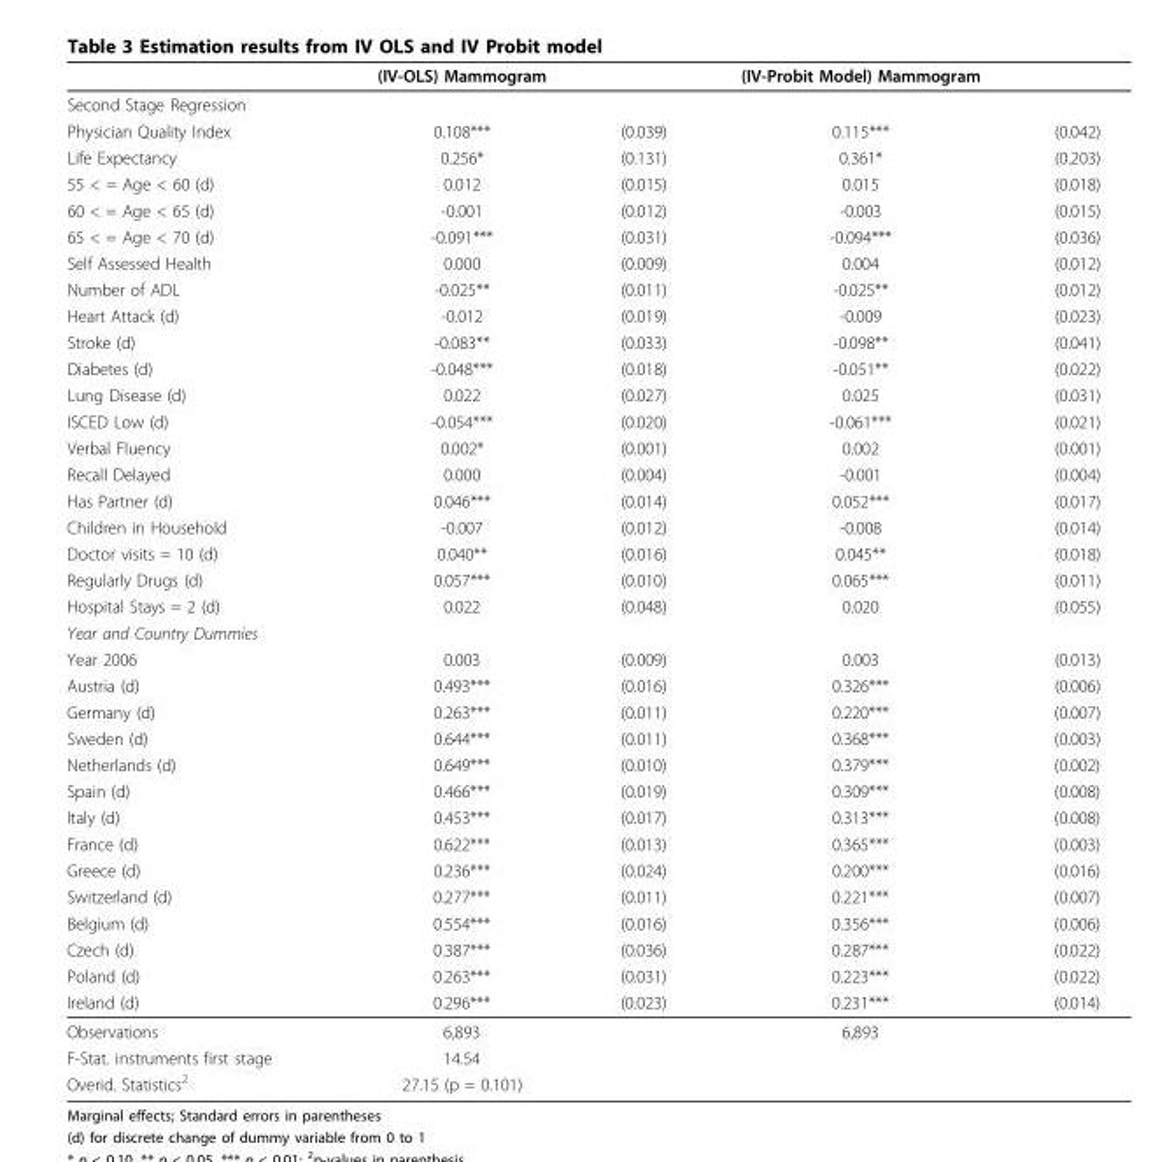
<table><thead><tr><td></td><td>(IV-OLS) Mammogram</td><td></td><td>(IV-Probit Model) Mammogram</td><td></td></tr></thead><tbody><tr><td colspan="5">Second Stage Regression</td></tr><tr><td>Physician Quality Index</td><td>0.108***</td><td>(0.039)</td><td>0.115***</td><td>(0.042)</td></tr><tr><td>Life Expectancy</td><td>0.256*</td><td>(0.131)</td><td>0.361*</td><td>(0.203)</td></tr><tr><td>55 &lt; = Age &lt; 60 (d)</td><td>0.012</td><td>(0.015)</td><td>0.015</td><td>(0.018)</td></tr><tr><td>60 &lt; = Age &lt; 65 (d)</td><td>-0.001</td><td>(0.012)</td><td>-0.003</td><td>(0.015)</td></tr><tr><td>65 &lt; = Age &lt; 70 (d)</td><td>-0.091***</td><td>(0.031)</td><td>-0.094***</td><td>(0.036)</td></tr><tr><td>Self Assessed Health</td><td>0.000</td><td>(0.009)</td><td>0.004</td><td>(0.012)</td></tr><tr><td>Number of ADL</td><td>-0.025**</td><td>(0.011)</td><td>-0.025**</td><td>(0.012)</td></tr><tr><td>Heart Attack (d)</td><td>-0.012</td><td>(0.019)</td><td>-0.009</td><td>(0.023)</td></tr><tr><td>Stroke (d)</td><td>-0.083**</td><td>(0.033)</td><td>-0.098**</td><td>(0.041)</td></tr><tr><td>Diabetes (d)</td><td>-0.048***</td><td>(0.018)</td><td>-0.051**</td><td>(0.022)</td></tr><tr><td>Lung Disease (d)</td><td>0.022</td><td>(0.027)</td><td>0.025</td><td>(0.031)</td></tr><tr><td>ISCED Low (d)</td><td>-0.054***</td><td>(0.020)</td><td>-0.061***</td><td>(0.021)</td></tr><tr><td>Verbal Fluency</td><td>0.002*</td><td>(0.001)</td><td>0.002</td><td>(0.001)</td></tr><tr><td>Recall Delayed</td><td>0.000</td><td>(0.004)</td><td>-0.001</td><td>(0.004)</td></tr><tr><td>Has Partner (d)</td><td>0.046***</td><td>(0.014)</td><td>0.052***</td><td>(0.017)</td></tr><tr><td>Children in Household</td><td>-0.007</td><td>(0.012)</td><td>-0.008</td><td>(0.014)</td></tr><tr><td>Doctor visits = 10 (d)</td><td>0.040**</td><td>(0.016)</td><td>0.045**</td><td>(0.018)</td></tr><tr><td>Regularly Drugs (d)</td><td>0.057***</td><td>(0.010)</td><td>0.065***</td><td>(0.011)</td></tr><tr><td>Hospital Stays = 2 (d)</td><td>0.022</td><td>(0.048)</td><td>0.020</td><td>(0.055)</td></tr><tr><td colspan="5">Year and Country Dummies</td></tr><tr><td>Year 2006</td><td>0.003</td><td>(0.009)</td><td>0.003</td><td>(0.013)</td></tr><tr><td>Austria (d)</td><td>0.493***</td><td>(0.016)</td><td>0.326***</td><td>(0.006)</td></tr><tr><td>Germany (d)</td><td>0.263***</td><td>(0.011)</td><td>0.220***</td><td>(0.007)</td></tr><tr><td>Sweden (d)</td><td>0.644***</td><td>(0.011)</td><td>0.368***</td><td>(0.003)</td></tr><tr><td>Netherlands (d)</td><td>0.649***</td><td>(0.010)</td><td>0.379***</td><td>(0.002)</td></tr><tr><td>Spain (d)</td><td>0.466***</td><td>(0.019)</td><td>0.309***</td><td>(0.008)</td></tr><tr><td>Italy (d)</td><td>0.453***</td><td>(0.017)</td><td>0.313***</td><td>(0.008)</td></tr><tr><td>France (d)</td><td>0.622***</td><td>(0.013)</td><td>0.365***</td><td>(0.003)</td></tr><tr><td>Greece (d)</td><td>0.236***</td><td>(0.024)</td><td>0.200***</td><td>(0.016)</td></tr><tr><td>Switzerland (d)</td><td>0.277***</td><td>(0.011)</td><td>0.221***</td><td>(0.007)</td></tr><tr><td>Belgium (d)</td><td>0.554***</td><td>(0.016)</td><td>0.356***</td><td>(0.006)</td></tr><tr><td>Czech (d)</td><td>0.387***</td><td>(0.036)</td><td>0.287***</td><td>(0.022)</td></tr><tr><td>Poland (d)</td><td>0.263***</td><td>(0.031)</td><td>0.223***</td><td>(0.022)</td></tr><tr><td>Ireland (d)</td><td>0.296***</td><td>(0.023)</td><td>0.231***</td><td>(0.014)</td></tr><tr><td>Observations</td><td>6,893</td><td></td><td>6,893</td><td></td></tr><tr><td>F-Stat. instruments first stage</td><td>14.54</td><td></td><td></td><td></td></tr><tr><td>Overid. Statistics<sup>2</sup></td><td>27.15 (p = 0.101)</td><td></td><td></td><td></td></tr></tbody></table>